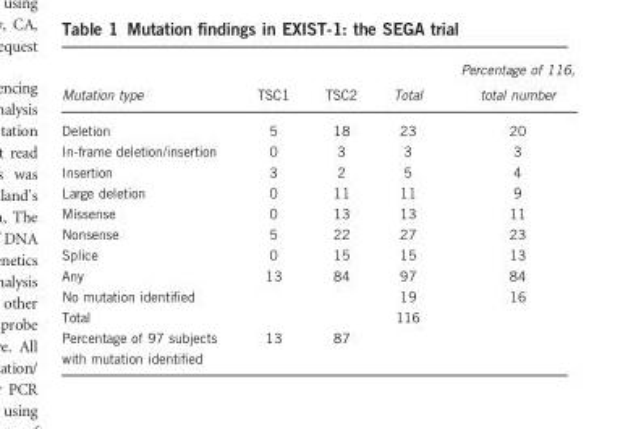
<table><thead><tr><td>Mutation type</td><td>TSC1</td><td>TSC2</td><td>Total</td><td>Percentage of 116, total number</td></tr></thead><tbody><tr><td>Deletion</td><td>5</td><td>18</td><td>23</td><td>20</td></tr><tr><td>In-frame deletion/insertion</td><td>0</td><td>3</td><td>3</td><td>3</td></tr><tr><td>Insertion</td><td>3</td><td>2</td><td>5</td><td>4</td></tr><tr><td>Large deletion</td><td>0</td><td>11</td><td>11</td><td>9</td></tr><tr><td>Missense</td><td>0</td><td>13</td><td>13</td><td>11</td></tr><tr><td>Nonsense</td><td>5</td><td>22</td><td>27</td><td>23</td></tr><tr><td>Splice</td><td>0</td><td>15</td><td>15</td><td>13</td></tr><tr><td>Any</td><td>13</td><td>84</td><td>97</td><td>84</td></tr><tr><td>No mutation identified</td><td></td><td></td><td>19</td><td>16</td></tr><tr><td>Total</td><td></td><td></td><td>116</td><td></td></tr><tr><td>Percentage of 97 subjects with mutation identified</td><td>13</td><td>87</td><td></td><td></td></tr></tbody></table>